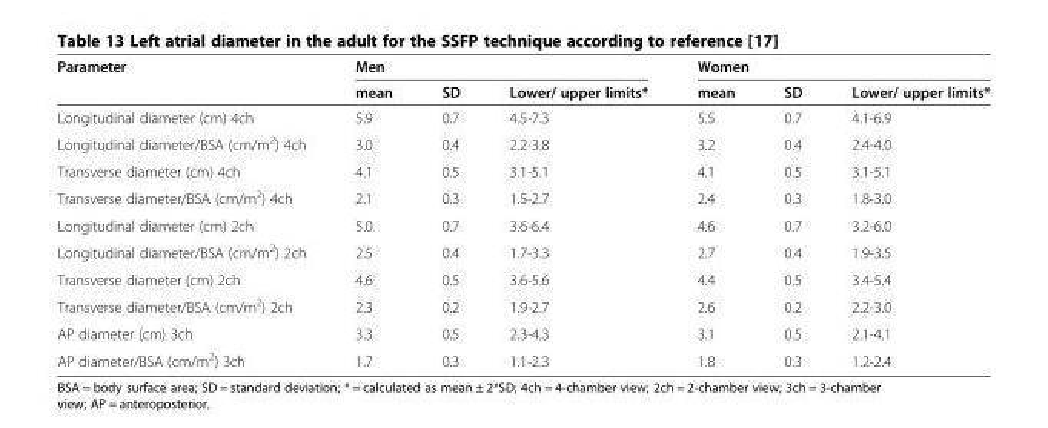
<table><thead><tr><td rowspan="2">Parameter</td><td colspan="3">Men</td><td colspan="3">Women</td></tr><tr><td>mean</td><td>SD</td><td>Lower/ upper limits*</td><td>mean</td><td>SD</td><td>Lower/ upper limits*</td></tr></thead><tbody><tr><td>Longitudinal diameter (cm) 4ch</td><td>5.9</td><td>0.7</td><td>4.5-7.3</td><td>5.5</td><td>0.7</td><td>4.1-6.9</td></tr><tr><td>Longitudinal diameter/BSA (cm/m<sup>2</sup>) 4ch</td><td>3.0</td><td>0.4</td><td>2.2-3.8</td><td>3.2</td><td>0.4</td><td>2.4-4.0</td></tr><tr><td>Transverse diameter (cm) 4ch</td><td>4.1</td><td>0.5</td><td>3.1-5.1</td><td>4.1</td><td>0.5</td><td>3.1-5.1</td></tr><tr><td>Transverse diameter/BSA (cm/m<sup>2</sup>) 4ch</td><td>2.1</td><td>0.3</td><td>1.5-2.7</td><td>2.4</td><td>0.3</td><td>1.8-3.0</td></tr><tr><td>Longitudinal diameter (cm) 2ch</td><td>5.0</td><td>0.7</td><td>3.6-6.4</td><td>4.6</td><td>0.7</td><td>3.2-6.0</td></tr><tr><td>Longitudinal diameter/BSA (cm/m<sup>2</sup>) 2ch</td><td>2.5</td><td>0.4</td><td>1.7-3.3</td><td>2.7</td><td>0.4</td><td>1.9-3.5</td></tr><tr><td>Transverse diameter (cm) 2ch</td><td>4.6</td><td>0.5</td><td>3.6-5.6</td><td>4.4</td><td>0.5</td><td>3.4-5.4</td></tr><tr><td>Transverse diameter/BSA (cm/m<sup>2</sup>) 2ch</td><td>2.3</td><td>0.2</td><td>1.9-2.7</td><td>2.6</td><td>0.2</td><td>2.2-3.0</td></tr><tr><td>AP diameter (cm) 3ch</td><td>3.3</td><td>0.5</td><td>2.3-4.3</td><td>3.1</td><td>0.5</td><td>2.1-4.1</td></tr><tr><td>AP diameter/BSA (cm/m<sup>2</sup>) 3ch</td><td>1.7</td><td>0.3</td><td>1.1-2.3</td><td>1.8</td><td>0.3</td><td>1.2-2.4</td></tr></tbody></table>